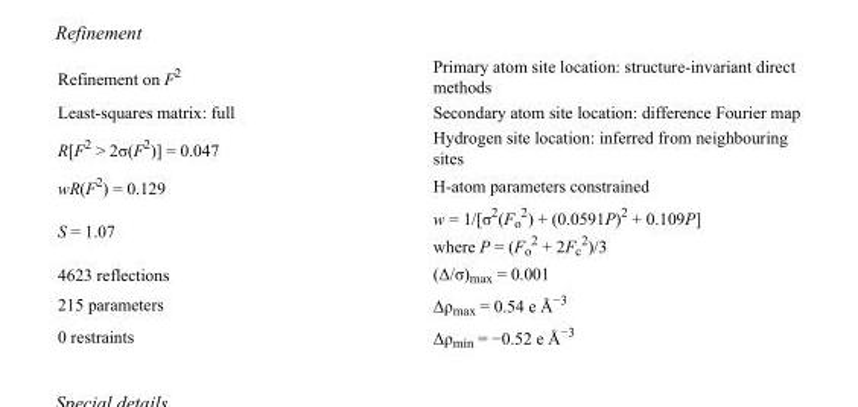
<table><tbody><tr><td>Refinement on F<sup>2</sup></td><td>Primary atom site location: structure-invariant direct methods</td></tr><tr><td>Least-squares matrix: full</td><td>Secondary atom site location: difference Fourier map</td></tr><tr><td>R[F<sup>2</sup> &gt; 2σ(F<sup>2</sup>)] = 0.047</td><td>Hydrogen site location: inferred from neighbouring sites</td></tr><tr><td>wR(F<sup>2</sup>) = 0.129</td><td>H-atom parameters constrained</td></tr><tr><td>S = 1.07</td><td>w = 1/[σ<sup>2</sup>(F<sub>o</sub> <sup>2</sup>) + (0.0591P)<sup>2</sup> + 0.109P] where P = (F<sub>o</sub> <sup>2</sup> + 2F<sub>c</sub> <sup>2</sup>)/3</td></tr><tr><td>4623 reflections</td><td>(Δ/σ)<sub>max</sub> = 0.001</td></tr><tr><td>215 parameters</td><td>Δρ<sub>max</sub> = 0.54 e Å<sup>−3</sup></td></tr><tr><td>0 restraints</td><td>Δρ<sub>min</sub> = −0.52 e Å<sup>−3</sup></td></tr></tbody></table>